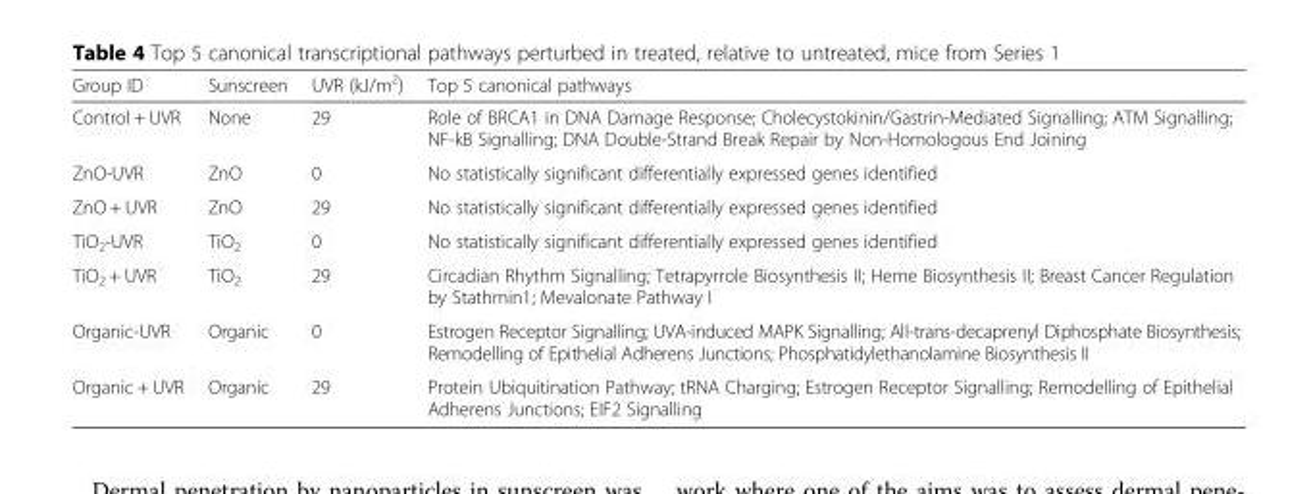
<table><thead><tr><td>Group ID</td><td>Sunscreen</td><td>UVR (kJ/m<sup>2</sup>)</td><td>Top 5 canonical pathways</td></tr></thead><tbody><tr><td>Control + UVR</td><td>None</td><td>29</td><td>Role of BRCA1 in DNA Damage Response; Cholecystokinin/Gastrin-Mediated Signalling; ATM Signalling; NF-kB Signalling; DNA Double-Strand Break Repair by Non-Homologous End Joining</td></tr><tr><td>ZnO-UVR</td><td>ZnO</td><td>0</td><td>No statistically significant differentially expressed genes identified</td></tr><tr><td>ZnO + UVR</td><td>ZnO</td><td>29</td><td>No statistically significant differentially expressed genes identified</td></tr><tr><td>TiO<sub>2</sub>-UVR</td><td>TiO<sub>2</sub></td><td>0</td><td>No statistically significant differentially expressed genes identified</td></tr><tr><td>TiO<sub>2</sub> + UVR</td><td>TiO<sub>2</sub></td><td>29</td><td>Circadian Rhythm Signalling; Tetrapyrrole Biosynthesis II; Heme Biosynthesis II; Breast Cancer Regulation by Stathmin1; Mevalonate Pathway I</td></tr><tr><td>Organic-UVR</td><td>Organic</td><td>0</td><td>Estrogen Receptor Signalling; UVA-induced MAPK Signalling; All-trans-decaprenyl Diphosphate Biosynthesis; Remodelling of Epithelial Adherens Junctions; Phosphatidylethanolamine Biosynthesis II</td></tr><tr><td>Organic + UVR</td><td>Organic</td><td>29</td><td>Protein Ubiquitination Pathway; tRNA Charging; Estrogen Receptor Signalling; Remodelling of Epithelial Adherens Junctions; EIF2 Signalling</td></tr></tbody></table>